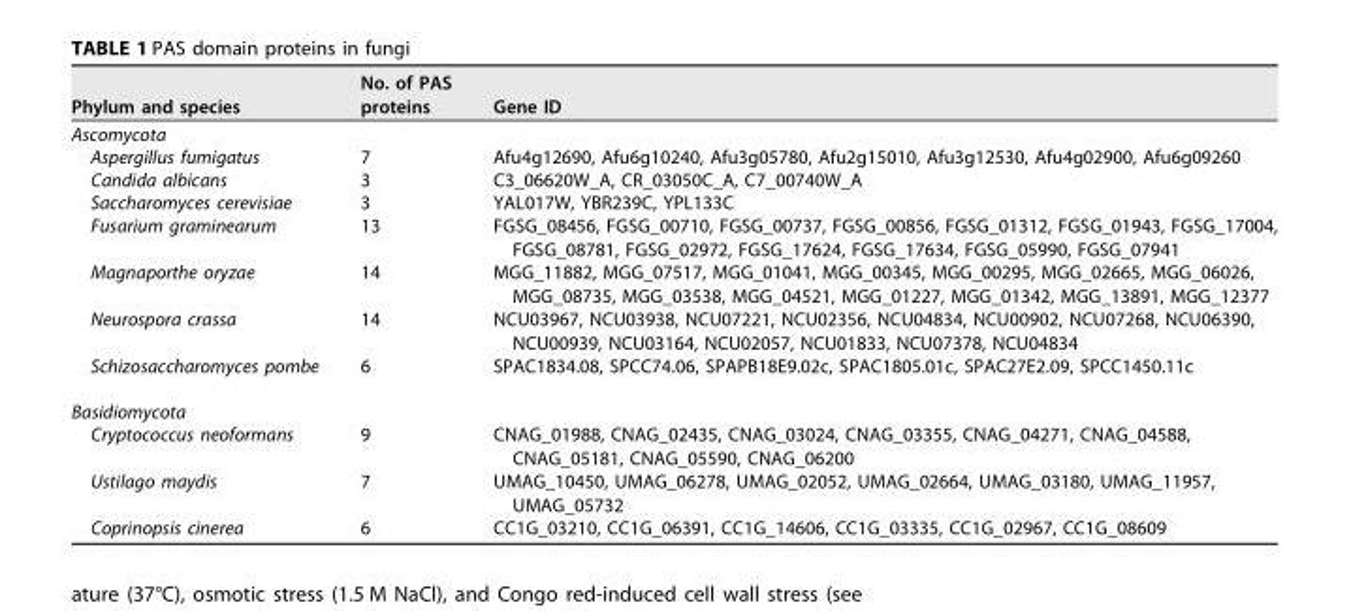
<table><thead><tr><td>Phylum and species</td><td>No. of PAS proteins</td><td>Gene ID</td></tr></thead><tbody><tr><td colspan="3">Ascomycota</td></tr><tr><td>Aspergillus fumigatus</td><td>7</td><td>Afu4g12690, Afu6g10240, Afu3g05780, Afu2g15010, Afu3g12530, Afu4g02900, Afu6g09260</td></tr><tr><td>Candida albicans</td><td>3</td><td>C3_06620W_A, CR_03050C_A, C7_00740W_A</td></tr><tr><td>Saccharomyces cerevisiae</td><td>3</td><td>YAL017W, YBR239C, YPL133C</td></tr><tr><td>Fusarium graminearum</td><td>13</td><td>FGSG_08456, FGSG_00710, FGSG_00737, FGSG_00856, FGSG_01312, FGSG_01943, FGSG_17004, FGSG_08781, FGSG_02972, FGSG_17624, FGSG_17634, FGSG_05990, FGSG_07941</td></tr><tr><td>Magnaporthe oryzae</td><td>14</td><td>MGG_11882, MGG_07517, MGG_01041, MGG_00345, MGG_00295, MGG_02665, MGG_06026, MGG_08735, MGG_03538, MGG_04521, MGG_01227, MGG_01342, MGG_13891, MGG_12377</td></tr><tr><td>Neurospora crassa</td><td>14</td><td>NCU03967, NCU03938, NCU07221, NCU02356, NCU04834, NCU00902, NCU07268, NCU06390, NCU00939, NCU03164, NCU02057, NCU01833, NCU07378, NCU04834</td></tr><tr><td>Schizosaccharomyces pombe</td><td>6</td><td>SPAC1834.08, SPCC74.06, SPAPB18E9.02c, SPAC1805.01c, SPAC27E2.09, SPCC1450.11c</td></tr><tr><td colspan="3">Basidiomycota</td></tr><tr><td>Cryptococcus neoformans</td><td>9</td><td>CNAG_01988, CNAG_02435, CNAG_03024, CNAG_03355, CNAG_04271, CNAG_04588, CNAG_05181, CNAG_05590, CNAG_06200</td></tr><tr><td>Ustilago maydis</td><td>7</td><td>UMAG_10450, UMAG_06278, UMAG_02052, UMAG_02664, UMAG_03180, UMAG_11957, UMAG_05732</td></tr><tr><td>Coprinopsis cinerea</td><td>6</td><td>CC1G_03210, CC1G_06391, CC1G_14606, CC1G_03335, CC1G_02967, CC1G_08609</td></tr></tbody></table>